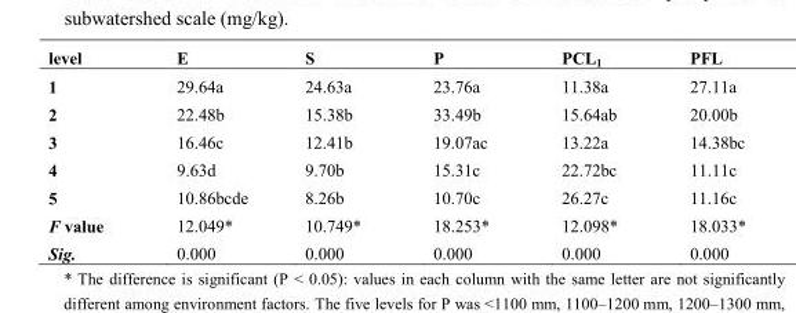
<table><thead><tr><td>level</td><td>E</td><td>S</td><td>P</td><td>PCL<sub>1</sub></td><td>PFL</td></tr></thead><tbody><tr><td>1</td><td>29.64a</td><td>24.63a</td><td>23.76a</td><td>11.38a</td><td>27.11a</td></tr><tr><td>2</td><td>22.48b</td><td>15.38b</td><td>33.49b</td><td>15.64ab</td><td>20.00b</td></tr><tr><td>3</td><td>16.46c</td><td>12.41b</td><td>19.07ac</td><td>13.22a</td><td>14.38bc</td></tr><tr><td>4</td><td>9.63d</td><td>9.70b</td><td>15.31c</td><td>22.72bc</td><td>11.11c</td></tr><tr><td>5</td><td>10.86bcde</td><td>8.26b</td><td>10.70c</td><td>26.27c</td><td>11.16c</td></tr><tr><td>F value</td><td>12.049*</td><td>10.749*</td><td>18.253*</td><td>12.098*</td><td>18.033*</td></tr><tr><td>Sig.</td><td>0.000</td><td>0.000</td><td>0.000</td><td>0.000</td><td>0.000</td></tr></tbody></table>